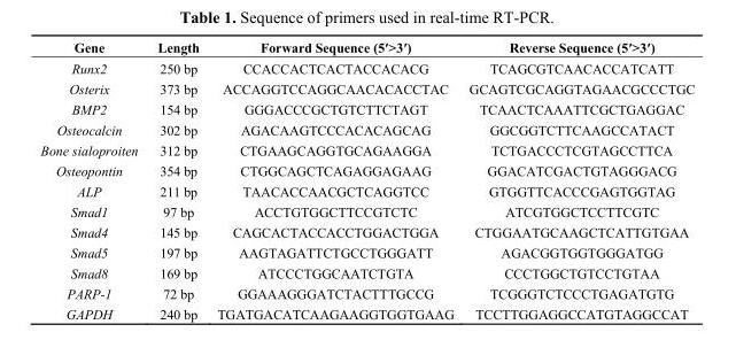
<table><thead><tr><td>Gene</td><td>Length</td><td>Forward Sequence (5′&gt;3′)</td><td>Reverse Sequence (5′&gt;3′)</td></tr></thead><tbody><tr><td>Runx2</td><td>250 bp</td><td>CCACCACTCACTACCACACG</td><td>TCAGCGTCAACACCATCATT</td></tr><tr><td>Osterix</td><td>373 bp</td><td>ACCAGGTCCAGGCAACACACCTAC</td><td>GCAGTCGCAGGTAGAACGCCCTGC</td></tr><tr><td>BMP2</td><td>154 bp</td><td>GGGACCCGCTGTCTTCTAGT</td><td>TCAACTCAAATTCGCTGAGGAC</td></tr><tr><td>Osteocalcin</td><td>302 bp</td><td>AGACAAGTCCCACACAGCAG</td><td>GGCGGTCTTCAAGCCATACT</td></tr><tr><td>Bone sialoproiten</td><td>312 bp</td><td>CTGAAGCAGGTGCAGAAGGA</td><td>TCTGACCCTCGTAGCCTTCA</td></tr><tr><td>Osteopontin</td><td>354 bp</td><td>CTGGCAGCTCAGAGGAGAAG</td><td>GGACATCGACTGTAGGGACG</td></tr><tr><td>ALP</td><td>211 bp</td><td>TAACACCAACGCTCAGGTCC</td><td>GTGGTTCACCCGAGTGGTAG</td></tr><tr><td>Smad1</td><td>97 bp</td><td>ACCTGTGGCTTCCGTCTC</td><td>ATCGTGGCTCCTTCGTC</td></tr><tr><td>Smad4</td><td>145 bp</td><td>CAGCACTACCACCTGGACTGGA</td><td>CTGGAATGCAAGCTCATTGTGAA</td></tr><tr><td>Smad5</td><td>197 bp</td><td>AAGTAGATTCTGCCTGGGATT</td><td>AGACGGTGGTGGGATGG</td></tr><tr><td>Smad8</td><td>169 bp</td><td>ATCCCTGGCAATCTGTA</td><td>CCCTGGCTGTCCTGTAA</td></tr><tr><td>PARP-1</td><td>72 bp</td><td>GGAAAGGGATCTACTTTGCCG</td><td>TCGGGTCTCCCTGAGATGTG</td></tr><tr><td>GAPDH</td><td>240 bp</td><td>TGATGACATCAAGAAGGTGGTGAAG</td><td>TCCTTGGAGGCCATGTAGGCCAT</td></tr></tbody></table>